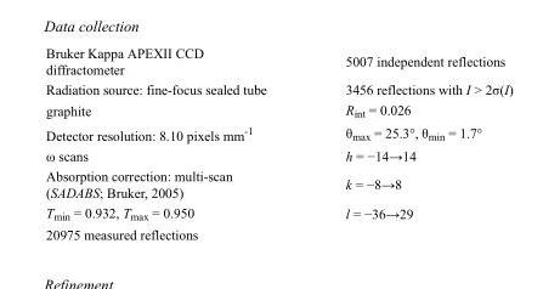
<table><tbody><tr><td>Bruker Kappa APEXII CCD diffractometer</td><td>5007 independent reflections</td></tr><tr><td>Radiation source: fine-focus sealed tube</td><td>3456 reflections with I &gt; 2σ(I)</td></tr><tr><td>graphite</td><td>R<sub>int</sub> = 0.026</td></tr><tr><td>Detector resolution: 8.10 pixels mm<sup>-1</sup></td><td>θ<sub>max</sub> = 25.3°, θ<sub>min</sub> = 1.7°</td></tr><tr><td>ω scans</td><td>h = −14→14</td></tr><tr><td>Absorption correction: multi-scan (SADABS; Bruker, 2005)</td><td>k = −8→8</td></tr><tr><td>T<sub>min</sub> = 0.932, T<sub>max</sub> = 0.950</td><td>l = −36→29</td></tr><tr><td>20975 measured reflections</td><td></td></tr></tbody></table>